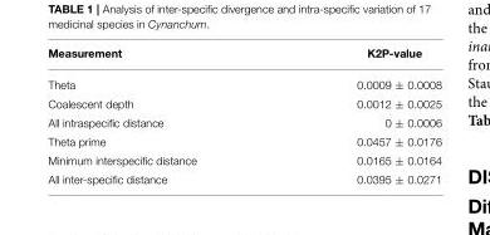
<table><thead><tr><td>Measurement</td><td>K2P-value</td></tr></thead><tbody><tr><td>Theta</td><td>0.0009 ± 0.0008</td></tr><tr><td>Coalescent depth</td><td>0.0012 ± 0.0025</td></tr><tr><td>All intraspecific distance</td><td>0 ± 0.0006</td></tr><tr><td>Theta prime</td><td>0.0457 ± 0.0176</td></tr><tr><td>Minimum interspecific distance</td><td>0.0165 ± 0.0164</td></tr><tr><td>All inter-specific distance</td><td>0.0395 ± 0.0271</td></tr></tbody></table>